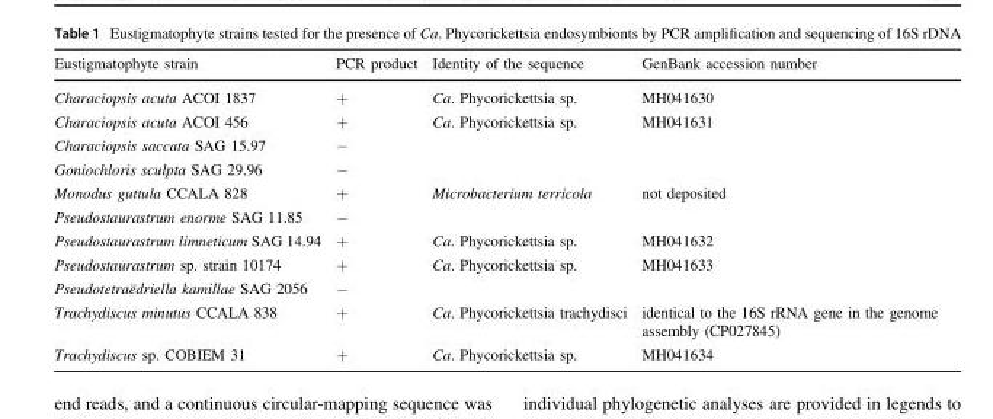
<table><thead><tr><td>Eustigmatophyte strain</td><td>PCR product</td><td>Identity of the sequence</td><td>GenBank accession number</td></tr></thead><tbody><tr><td>Characiopsis acuta ACOI 1837</td><td>+</td><td>Ca. Phycorickettsia sp.</td><td>MH041630</td></tr><tr><td>Characiopsis acuta ACOI 456</td><td>+</td><td>Ca. Phycorickettsia sp.</td><td>MH041631</td></tr><tr><td>Characiopsis saccata SAG 15.97</td><td>−</td><td></td><td></td></tr><tr><td>Goniochloris sculpta SAG 29.96</td><td>−</td><td></td><td></td></tr><tr><td>Monodus guttula CCALA 828</td><td>+</td><td>Microbacterium terricola</td><td>not deposited</td></tr><tr><td>Pseudostaurastrum enorme SAG 11.85</td><td>−</td><td></td><td></td></tr><tr><td>Pseudostaurastrum limneticum SAG 14.94</td><td>+</td><td>Ca. Phycorickettsia sp.</td><td>MH041632</td></tr><tr><td>Pseudostaurastrum sp. strain 10174</td><td>+</td><td>Ca. Phycorickettsia sp.</td><td>MH041633</td></tr><tr><td>Pseudotetraëdriella kamillae SAG 2056</td><td>−</td><td></td><td></td></tr><tr><td>Trachydiscus minutus CCALA 838</td><td>+</td><td>Ca. Phycorickettsia trachydisci</td><td>identical to the 16S rRNA gene in the genome assembly (CP027845)</td></tr><tr><td>Trachydiscus sp. COBIEM 31</td><td>+</td><td>Ca. Phycorickettsia sp.</td><td>MH041634</td></tr></tbody></table>